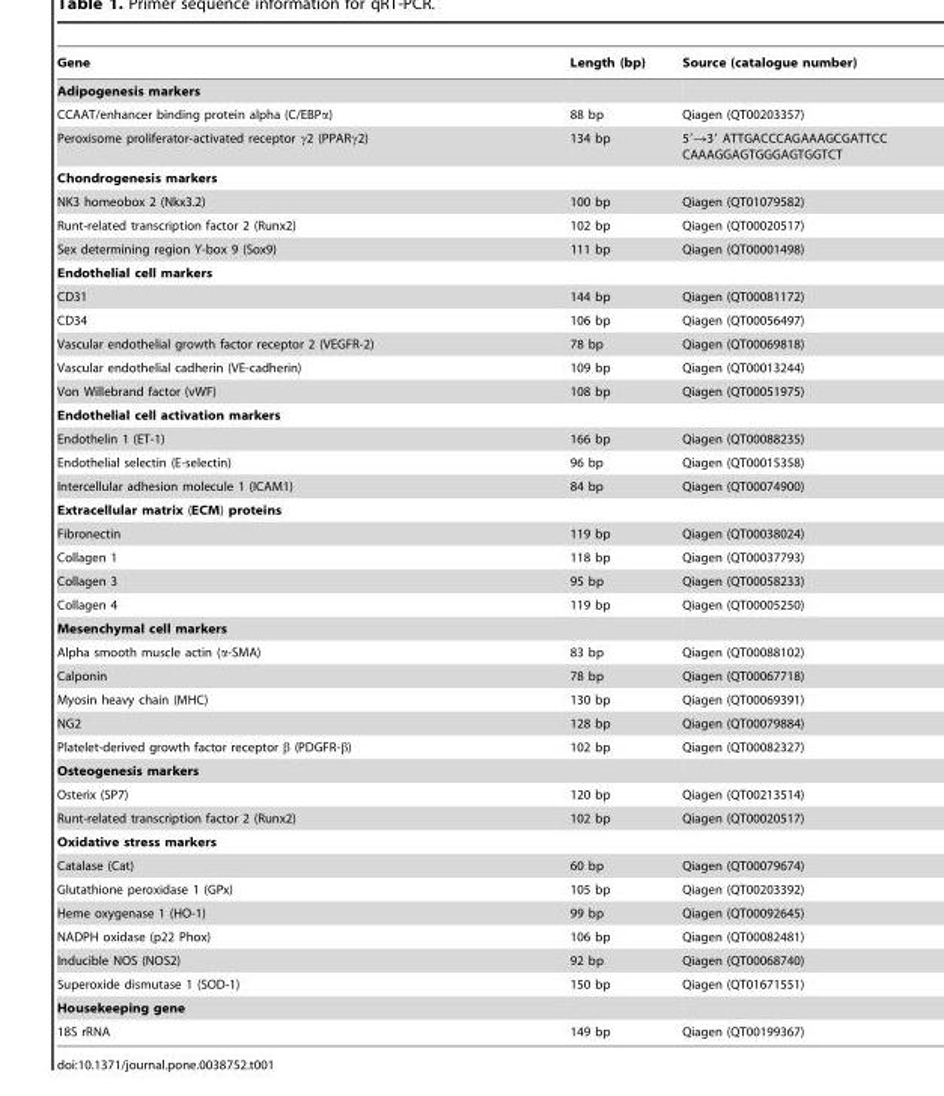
<table><thead><tr><td>Gene</td><td>Length (bp)</td><td>Source (catalogue number)</td></tr></thead><tbody><tr><td colspan="3">Adipogenesis markers</td></tr><tr><td>CCAAT/enhancer binding protein alpha (C/EBPα)</td><td>88 bp</td><td>Qiagen (QT00203357)</td></tr><tr><td>Peroxisome proliferator-activated receptor γ2 (PPARγ2)</td><td>134 bp</td><td>5′→3′ ATTGACCCAGAAAGCGATTCC CAAAGGAGTGGGAGTGGTCT</td></tr><tr><td colspan="3">Chondrogenesis markers</td></tr><tr><td>NK3 homeobox 2 (Nkx3.2)</td><td>100 bp</td><td>Qiagen (QT01079582)</td></tr><tr><td>Runt-related transcription factor 2 (Runx2)</td><td>102 bp</td><td>Qiagen (QT00020517)</td></tr><tr><td>Sex determining region Y-box 9 (Sox9)</td><td>111 bp</td><td>Qiagen (QT00001498)</td></tr><tr><td colspan="3">Endothelial cell markers</td></tr><tr><td>CD31</td><td>144 bp</td><td>Qiagen (QT00081172)</td></tr><tr><td>CD34</td><td>106 bp</td><td>Qiagen (QT00056497)</td></tr><tr><td>Vascular endothelial growth factor receptor 2 (VEGFR-2)</td><td>78 bp</td><td>Qiagen (QT00069818)</td></tr><tr><td>Vascular endothelial cadherin (VE-cadherin)</td><td>109 bp</td><td>Qiagen (QT00013244)</td></tr><tr><td>Von Willebrand factor (vWF)</td><td>108 bp</td><td>Qiagen (QT00051975)</td></tr><tr><td colspan="3">Endothelial cell activation markers</td></tr><tr><td>Endothelin 1 (ET-1)</td><td>166 bp</td><td>Qiagen (QT00088235)</td></tr><tr><td>Endothelial selectin (E-selectin)</td><td>96 bp</td><td>Qiagen (QT00015358)</td></tr><tr><td>Intercellular adhesion molecule 1 (ICAM1)</td><td>84 bp</td><td>Qiagen (QT00074900)</td></tr><tr><td colspan="3">Extracellular matrix (ECM) proteins</td></tr><tr><td>Fibronectin</td><td>119 bp</td><td>Qiagen (QT00038024)</td></tr><tr><td>Collagen 1</td><td>118 bp</td><td>Qiagen (QT00037793)</td></tr><tr><td>Collagen 3</td><td>95 bp</td><td>Qiagen (QT00058233)</td></tr><tr><td>Collagen 4</td><td>119 bp</td><td>Qiagen (QT00005250)</td></tr><tr><td colspan="3">Mesenchymal cell markers</td></tr><tr><td>Alpha smooth muscle actin (α-SMA)</td><td>83 bp</td><td>Qiagen (QT00088102)</td></tr><tr><td>Calponin</td><td>78 bp</td><td>Qiagen (QT00067718)</td></tr><tr><td>Myosin heavy chain (MHC)</td><td>130 bp</td><td>Qiagen (QT00069391)</td></tr><tr><td>NG2</td><td>128 bp</td><td>Qiagen (QT00079884)</td></tr><tr><td>Platelet-derived growth factor receptor β (PDGFR-β)</td><td>102 bp</td><td>Qiagen (QT00082327)</td></tr><tr><td colspan="3">Osteogenesis markers</td></tr><tr><td>Osterix (SP7)</td><td>120 bp</td><td>Qiagen (QT00213514)</td></tr><tr><td>Runt-related transcription factor 2 (Runx2)</td><td>102 bp</td><td>Qiagen (QT00020517)</td></tr><tr><td colspan="3">Oxidative stress markers</td></tr><tr><td>Catalase (Cat)</td><td>60 bp</td><td>Qiagen (QT00079674)</td></tr><tr><td>Glutathione peroxidase 1 (GPx)</td><td>105 bp</td><td>Qiagen (QT00203392)</td></tr><tr><td>Heme oxygenase 1 (HO-1)</td><td>99 bp</td><td>Qiagen (QT00092645)</td></tr><tr><td>NADPH oxidase (p22 Phox)</td><td>106 bp</td><td>Qiagen (QT00082481)</td></tr><tr><td>Inducible NOS (NOS2)</td><td>92 bp</td><td>Qiagen (QT00068740)</td></tr><tr><td>Superoxide dismutase 1 (SOD-1)</td><td>150 bp</td><td>Qiagen (QT01671551)</td></tr><tr><td colspan="3">Housekeeping gene</td></tr><tr><td>18S rRNA</td><td>149 bp</td><td>Qiagen (QT00199367)</td></tr></tbody></table>